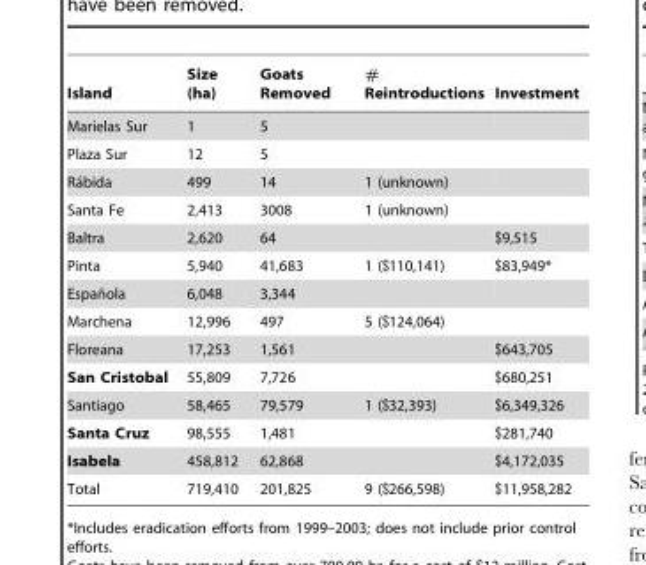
<table><thead><tr><td>Island</td><td>Size (ha)</td><td>Goats Removed</td><td># Reintroductions</td><td>Investment</td></tr></thead><tbody><tr><td>Marielas Sur</td><td>1</td><td>5</td><td></td><td></td></tr><tr><td>Plaza Sur</td><td>12</td><td>5</td><td></td><td></td></tr><tr><td>Ra´bida</td><td>499</td><td>14</td><td>1 (unknown)</td><td></td></tr><tr><td>Santa Fe</td><td>2,413</td><td>3008</td><td>1 (unknown)</td><td></td></tr><tr><td>Baltra</td><td>2,620</td><td>64</td><td></td><td>$9,515</td></tr><tr><td>Pinta</td><td>5,940</td><td>41,683</td><td>1 ($110,141)</td><td>$83,949*</td></tr><tr><td>Espan˜ola</td><td>6,048</td><td>3,344</td><td></td><td></td></tr><tr><td>Marchena</td><td>12,996</td><td>497</td><td>5 ($124,064)</td><td></td></tr><tr><td>Floreana</td><td>17,253</td><td>1,561</td><td></td><td>$643,705</td></tr><tr><td>San Cristobal</td><td>55,809</td><td>7,726</td><td></td><td>$680,251</td></tr><tr><td>Santiago</td><td>58,465</td><td>79,579</td><td>1 ($32,393)</td><td>$6,349,326</td></tr><tr><td>Santa Cruz</td><td>98,555</td><td>1,481</td><td></td><td>$281,740</td></tr><tr><td>Isabela</td><td>458,812</td><td>62,868</td><td></td><td>$4,172,035</td></tr><tr><td>Total</td><td>719,410</td><td>201,825</td><td>9 ($266,598)</td><td>$11,958,282</td></tr></tbody></table>